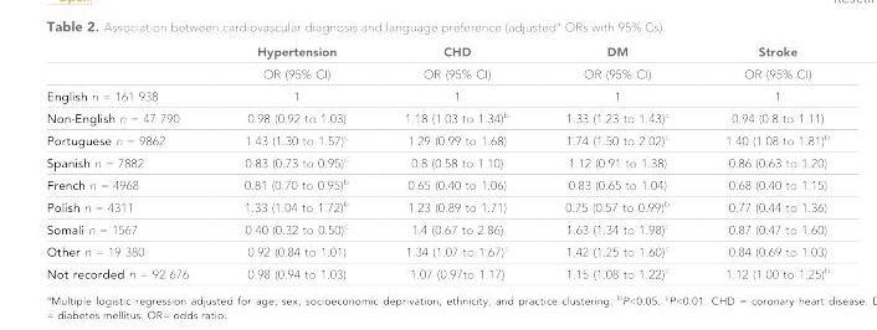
<table><thead><tr><td></td><td>Hypertension</td><td>CHD</td><td>DM</td><td>Stroke</td></tr></thead><tbody><tr><td></td><td>OR (95% CI)</td><td>OR (95% CI)</td><td>OR (95% CI)</td><td>OR (95% CI)</td></tr><tr><td>English n = 161 938</td><td>1</td><td>1</td><td>1</td><td>1</td></tr><tr><td>Non-English n = 47 790</td><td>0.98 (0.92 to 1.03)</td><td>1.18 (1.03 to 1.34)<sup>b</sup></td><td>1.33 (1.23 to 1.43)<sup>c</sup></td><td>0.94 (0.8 to 1.11)</td></tr><tr><td>Portuguese n = 9862</td><td>1.43 (1.30 to 1.57)<sup>c</sup></td><td>1.29 (0.99 to 1.68)</td><td>1.74 (1.50 to 2.02)<sup>c</sup></td><td>1.40 (1.08 to 1.81)<sup>b</sup></td></tr><tr><td>Spanish n = 7882</td><td>0.83 (0.73 to 0.95)<sup>c</sup></td><td>0.8 (0.58 to 1.10)</td><td>1.12 (0.91 to 1.38)</td><td>0.86 (0.63 to 1.20)</td></tr><tr><td>French n = 4968</td><td>0.81 (0.70 to 0.95)<sup>b</sup></td><td>0.65 (0.40 to 1.06)</td><td>0.83 (0.65 to 1.04)</td><td>0.68 (0.40 to 1.15)</td></tr><tr><td>Polish n = 4311</td><td>1.33 (1.04 to 1.72)<sup>b</sup></td><td>1.23 (0.89 to 1.71)</td><td>0.75 (0.57 to 0.99)<sup>b</sup></td><td>0.77 (0.44 to 1.36)</td></tr><tr><td>Somali n = 1567</td><td>0.40 (0.32 to 0.50)<sup>c</sup></td><td>1.4 (0.67 to 2.86)</td><td>1.63 (1.34 to 1.98)<sup>c</sup></td><td>0.87 (0.47 to 1.60)</td></tr><tr><td>Other n = 19 380</td><td>0.92 (0.84 to 1.01)</td><td>1.34 (1.07 to 1.67)<sup>c</sup></td><td>1.42 (1.25 to 1.60)<sup>c</sup></td><td>0.84 (0.69 to 1.03)</td></tr><tr><td>Not recorded n = 92 676</td><td>0.98 (0.94 to 1.03)</td><td>1.07 (0.97to 1.17)</td><td>1.15 (1.08 to 1.22)<sup>c</sup></td><td>1.12 (1.00 to 1.25)<sup>b</sup></td></tr></tbody></table>